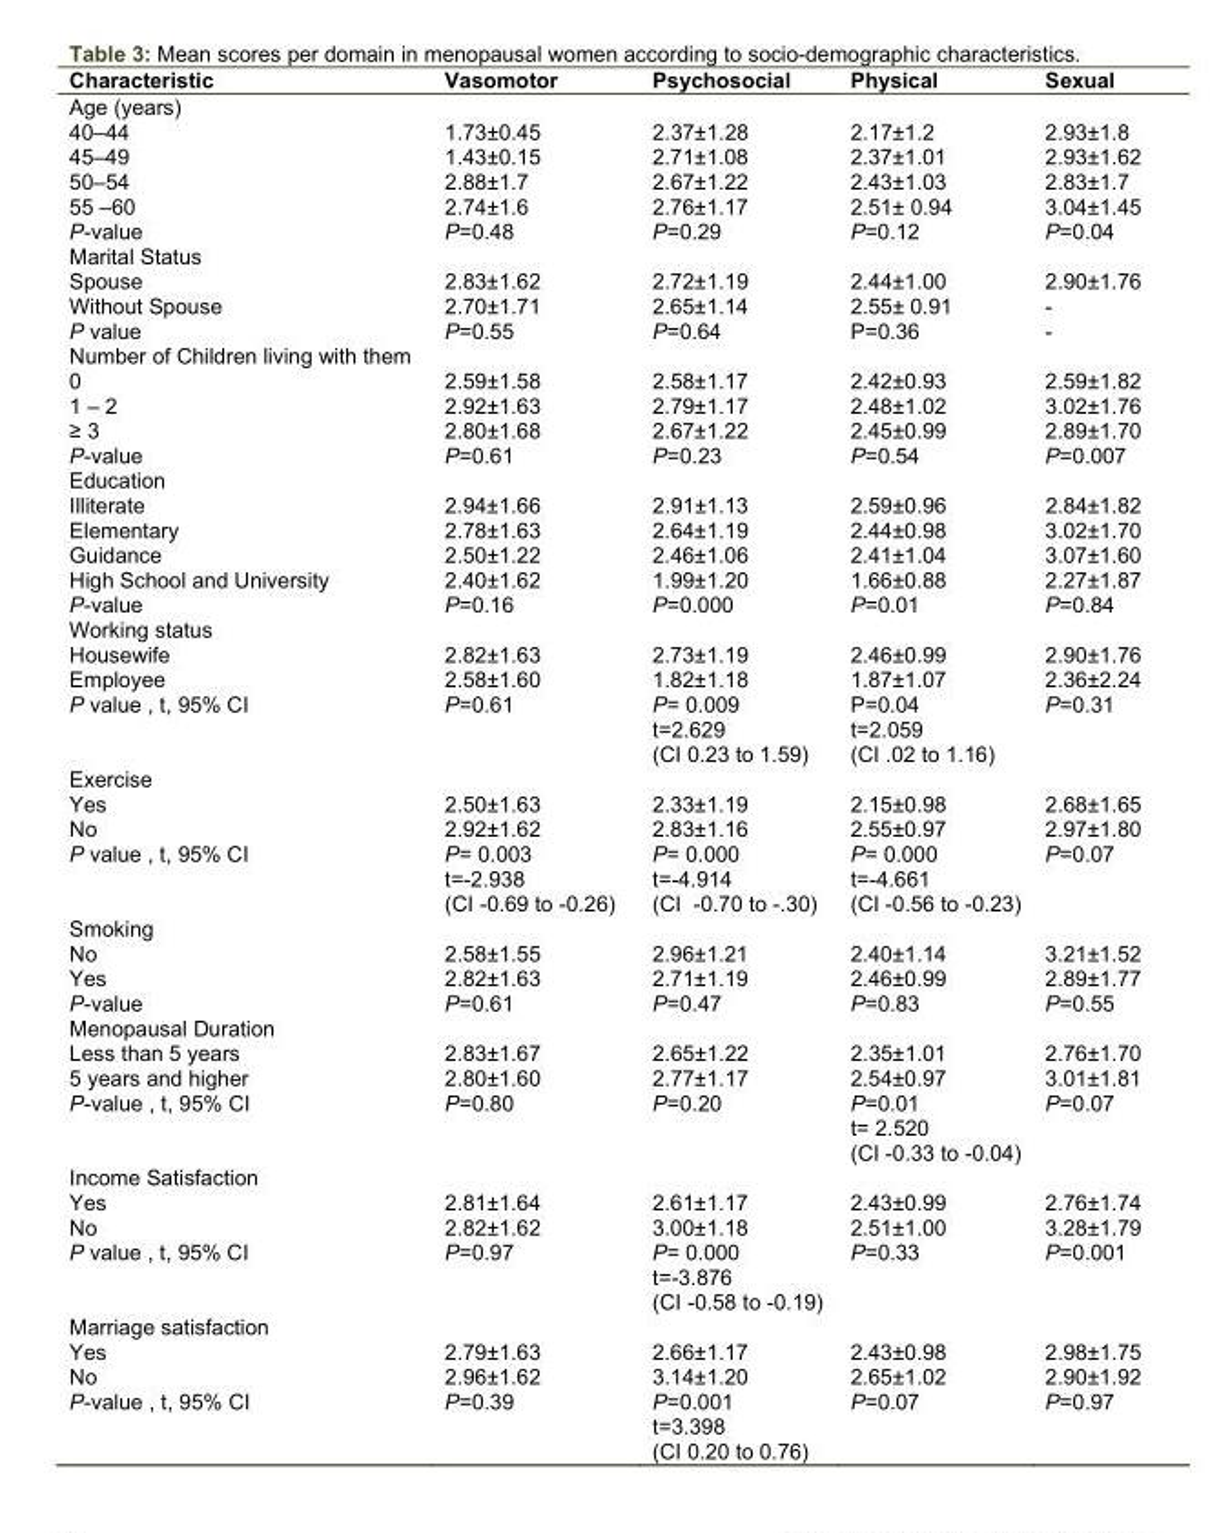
<table><thead><tr><td>Characteristic</td><td>Vasomotor</td><td>Psychosocial</td><td>Physical</td><td>Sexual</td></tr></thead><tbody><tr><td colspan="5">Age (years)</td></tr><tr><td>40–44</td><td>1.73±0.45</td><td>2.37±1.28</td><td>2.17±1.2</td><td>2.93±1.8</td></tr><tr><td>45–49</td><td>1.43±0.15</td><td>2.71±1.08</td><td>2.37±1.01</td><td>2.93±1.62</td></tr><tr><td>50–54</td><td>2.88±1.7</td><td>2.67±1.22</td><td>2.43±1.03</td><td>2.83±1.7</td></tr><tr><td>55 –60</td><td>2.74±1.6</td><td>2.76±1.17</td><td>2.51± 0.94</td><td>3.04±1.45</td></tr><tr><td>P-value</td><td>P=0.48</td><td>P=0.29</td><td>P=0.12</td><td>P=0.04</td></tr><tr><td colspan="5">Marital Status</td></tr><tr><td>Spouse</td><td>2.83±1.62</td><td>2.72±1.19</td><td>2.44±1.00</td><td>2.90±1.76</td></tr><tr><td>Without Spouse</td><td>2.70±1.71</td><td>2.65±1.14</td><td>2.55± 0.91</td><td>-</td></tr><tr><td>P value</td><td>P=0.55</td><td>P=0.64</td><td>P=0.36</td><td>-</td></tr><tr><td colspan="5">Number of Children living with them</td></tr><tr><td>0</td><td>2.59±1.58</td><td>2.58±1.17</td><td>2.42±0.93</td><td>2.59±1.82</td></tr><tr><td>1 – 2</td><td>2.92±1.63</td><td>2.79±1.17</td><td>2.48±1.02</td><td>3.02±1.76</td></tr><tr><td>≥ 3</td><td>2.80±1.68</td><td>2.67±1.22</td><td>2.45±0.99</td><td>2.89±1.70</td></tr><tr><td>P-value</td><td>P=0.61</td><td>P=0.23</td><td>P=0.54</td><td>P=0.007</td></tr><tr><td colspan="5">Education</td></tr><tr><td>Illiterate</td><td>2.94±1.66</td><td>2.91±1.13</td><td>2.59±0.96</td><td>2.84±1.82</td></tr><tr><td>Elementary</td><td>2.78±1.63</td><td>2.64±1.19</td><td>2.44±0.98</td><td>3.02±1.70</td></tr><tr><td>Guidance</td><td>2.50±1.22</td><td>2.46±1.06</td><td>2.41±1.04</td><td>3.07±1.60</td></tr><tr><td>High School and University</td><td>2.40±1.62</td><td>1.99±1.20</td><td>1.66±0.88</td><td>2.27±1.87</td></tr><tr><td>P-value</td><td>P=0.16</td><td>P=0.000</td><td>P=0.01</td><td>P=0.84</td></tr><tr><td colspan="5">Working status</td></tr><tr><td>Housewife</td><td>2.82±1.63</td><td>2.73±1.19</td><td>2.46±0.99</td><td>2.90±1.76</td></tr><tr><td>Employee</td><td>2.58±1.60</td><td>1.82±1.18</td><td>1.87±1.07</td><td>2.36±2.24</td></tr><tr><td>P value , t, 95% CI</td><td>P=0.61</td><td>P= 0.009 t=2.629 (CI 0.23 to 1.59)</td><td>P=0.04 t=2.059 (CI .02 to 1.16)</td><td>P=0.31</td></tr><tr><td colspan="5">Exercise</td></tr><tr><td>Yes</td><td>2.50±1.63</td><td>2.33±1.19</td><td>2.15±0.98</td><td>2.68±1.65</td></tr><tr><td>No</td><td>2.92±1.62</td><td>2.83±1.16</td><td>2.55±0.97</td><td>2.97±1.80</td></tr><tr><td>P value , t, 95% CI</td><td>P= 0.003 t=-2.938 (CI -0.69 to -0.26)</td><td>P= 0.000 t=-4.914 (CI -0.70 to -.30)</td><td>P= 0.000 t=-4.661 (CI -0.56 to -0.23)</td><td>P=0.07</td></tr><tr><td colspan="5">Smoking</td></tr><tr><td>No</td><td>2.58±1.55</td><td>2.96±1.21</td><td>2.40±1.14</td><td>3.21±1.52</td></tr><tr><td>Yes</td><td>2.82±1.63</td><td>2.71±1.19</td><td>2.46±0.99</td><td>2.89±1.77</td></tr><tr><td>P-value</td><td>P=0.61</td><td>P=0.47</td><td>P=0.83</td><td>P=0.55</td></tr><tr><td colspan="5">Menopausal Duration</td></tr><tr><td>Less than 5 years</td><td>2.83±1.67</td><td>2.65±1.22</td><td>2.35±1.01</td><td>2.76±1.70</td></tr><tr><td>5 years and higher</td><td>2.80±1.60</td><td>2.77±1.17</td><td>2.54±0.97</td><td>3.01±1.81</td></tr><tr><td>P-value , t, 95% CI</td><td>P=0.80</td><td>P=0.20</td><td>P=0.01 t= 2.520 (CI -0.33 to -0.04)</td><td>P=0.07</td></tr><tr><td colspan="5">Income Satisfaction</td></tr><tr><td>Yes</td><td>2.81±1.64</td><td>2.61±1.17</td><td>2.43±0.99</td><td>2.76±1.74</td></tr><tr><td>No</td><td>2.82±1.62</td><td>3.00±1.18</td><td>2.51±1.00</td><td>3.28±1.79</td></tr><tr><td>P value , t, 95% CI</td><td>P=0.97</td><td>P= 0.000 t=-3.876 (CI -0.58 to -0.19)</td><td>P=0.33</td><td>P=0.001</td></tr><tr><td colspan="5">Marriage satisfaction</td></tr><tr><td>Yes</td><td>2.79±1.63</td><td>2.66±1.17</td><td>2.43±0.98</td><td>2.98±1.75</td></tr><tr><td>No</td><td>2.96±1.62</td><td>3.14±1.20</td><td>2.65±1.02</td><td>2.90±1.92</td></tr><tr><td>P-value , t, 95% CI</td><td>P=0.39</td><td>P=0.001 t=3.398 (CI 0.20 to 0.76)</td><td>P=0.07</td><td>P=0.97</td></tr></tbody></table>